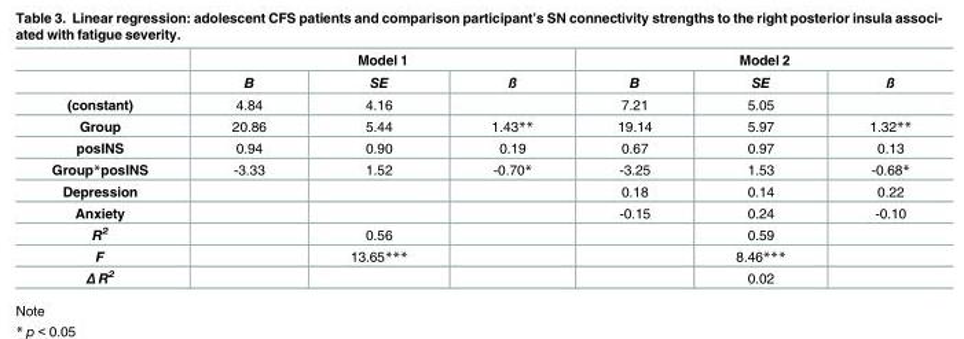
<table><thead><tr><td rowspan="2"></td><td colspan="3">Model 1</td><td colspan="3">Model 2</td></tr><tr><td>B</td><td>SE</td><td>ß</td><td>B</td><td>SE</td><td>ß</td></tr></thead><tbody><tr><td>(constant)</td><td>4.84</td><td>4.16</td><td></td><td>7.21</td><td>5.05</td><td></td></tr><tr><td>Group</td><td>20.86</td><td>5.44</td><td>1.43**</td><td>19.14</td><td>5.97</td><td>1.32**</td></tr><tr><td>posINS</td><td>0.94</td><td>0.90</td><td>0.19</td><td>0.67</td><td>0.97</td><td>0.13</td></tr><tr><td>Group*posINS</td><td>-3.33</td><td>1.52</td><td>-0.70*</td><td>-3.25</td><td>1.53</td><td>-0.68*</td></tr><tr><td>Depression</td><td></td><td></td><td></td><td>0.18</td><td>0.14</td><td>0.22</td></tr><tr><td>Anxiety</td><td></td><td></td><td></td><td>-0.15</td><td>0.24</td><td>-0.10</td></tr><tr><td>R<sup>2</sup></td><td></td><td>0.56</td><td></td><td></td><td>0.59</td><td></td></tr><tr><td>F</td><td></td><td>13.65***</td><td></td><td></td><td>8.46***</td><td></td></tr><tr><td>Δ R<sup>2</sup></td><td></td><td></td><td></td><td></td><td>0.02</td><td></td></tr></tbody></table>